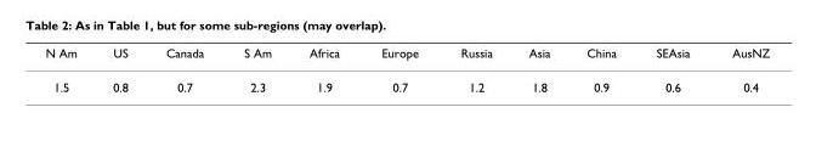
<table><thead><tr><td>N Am</td><td>US</td><td>Canada</td><td>S Am</td><td>Africa</td><td>Europe</td><td>Russia</td><td>Asia</td><td>China</td><td>SEAsia</td><td>AusNZ</td></tr></thead><tbody><tr><td>1.5</td><td>0.8</td><td>0.7</td><td>2.3</td><td>1.9</td><td>0.7</td><td>1.2</td><td>1.8</td><td>0.9</td><td>0.6</td><td>0.4</td></tr></tbody></table>